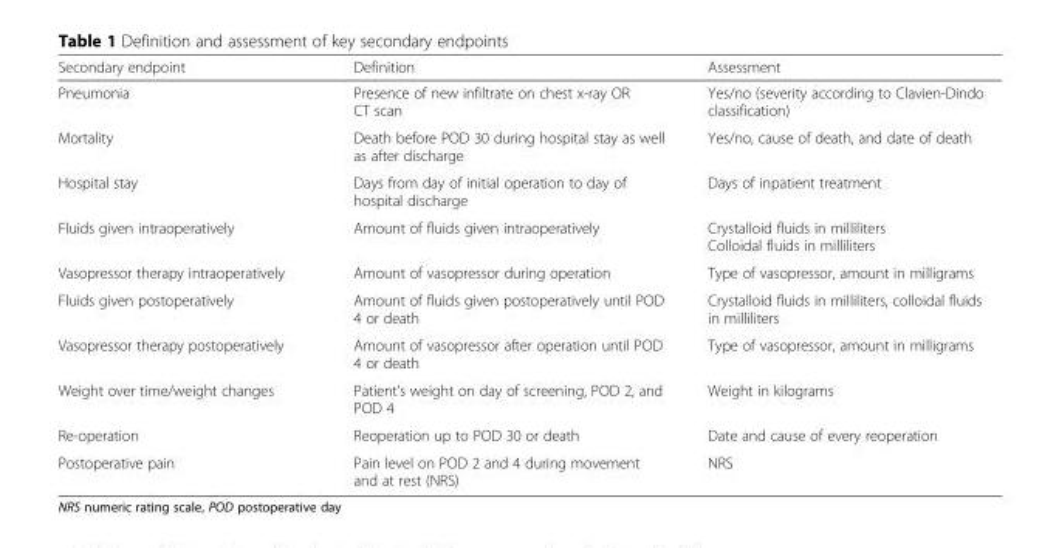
<table><thead><tr><td>Secondary endpoint</td><td>Definition</td><td>Assessment</td></tr></thead><tbody><tr><td>Pneumonia</td><td>Presence of new infiltrate on chest x-ray OR CT scan</td><td>Yes/no (severity according to Clavien-Dindo classification)</td></tr><tr><td>Mortality</td><td>Death before POD 30 during hospital stay as well as after discharge</td><td>Yes/no, cause of death, and date of death</td></tr><tr><td>Hospital stay</td><td>Days from day of initial operation to day of hospital discharge</td><td>Days of inpatient treatment</td></tr><tr><td>Fluids given intraoperatively</td><td>Amount of fluids given intraoperatively</td><td>Crystalloid fluids in milliliters Colloidal fluids in milliliters</td></tr><tr><td>Vasopressor therapy intraoperatively</td><td>Amount of vasopressor during operation</td><td>Type of vasopressor, amount in milligrams</td></tr><tr><td>Fluids given postoperatively</td><td>Amount of fluids given postoperatively until POD 4 or death</td><td>Crystalloid fluids in milliliters, colloidal fluids in milliliters</td></tr><tr><td>Vasopressor therapy postoperatively</td><td>Amount of vasopressor after operation until POD 4 or death</td><td>Type of vasopressor, amount in milligrams</td></tr><tr><td>Weight over time/weight changes</td><td>Patient’s weight on day of screening, POD 2, and POD 4</td><td>Weight in kilograms</td></tr><tr><td>Re-operation</td><td>Reoperation up to POD 30 or death</td><td>Date and cause of every reoperation</td></tr><tr><td>Postoperative pain</td><td>Pain level on POD 2 and 4 during movement and at rest (NRS)</td><td>NRS</td></tr></tbody></table>